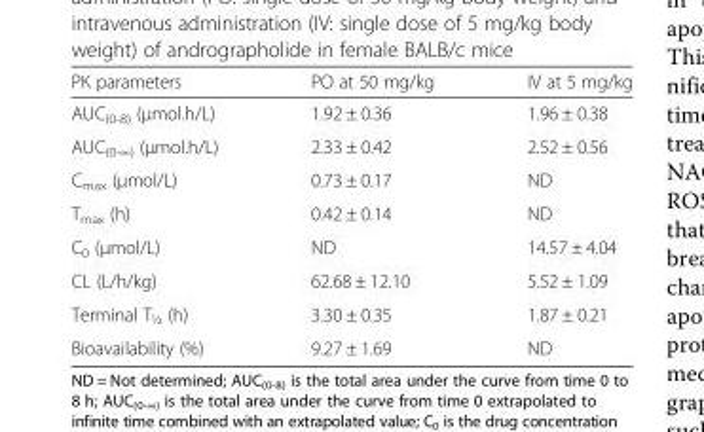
<table><thead><tr><td>PK parameters</td><td>PO at 50 mg/kg</td><td>IV at 5 mg/kg</td></tr></thead><tbody><tr><td>AUC<sub>(0-8)</sub> (μmol.h/L)</td><td>1.92 ± 0.36</td><td>1.96 ± 0.38</td></tr><tr><td>AUC<sub>(0-∞)</sub> (μmol.h/L)</td><td>2.33 ± 0.42</td><td>2.52 ± 0.56</td></tr><tr><td>C<sub>max</sub> (μmol/L)</td><td>0.73 ± 0.17</td><td>ND</td></tr><tr><td>T<sub>max</sub> (h)</td><td>0.42 ± 0.14</td><td>ND</td></tr><tr><td>C<sub>0</sub> (μmol/L)</td><td>ND</td><td>14.57 ± 4.04</td></tr><tr><td>CL (L/h/kg)</td><td>62.68 ± 12.10</td><td>5.52 ± 1.09</td></tr><tr><td>Terminal T<sub>½</sub> (h)</td><td>3.30 ± 0.35</td><td>1.87 ± 0.21</td></tr><tr><td>Bioavailability (%)</td><td>9.27 ± 1.69</td><td>ND</td></tr></tbody></table>